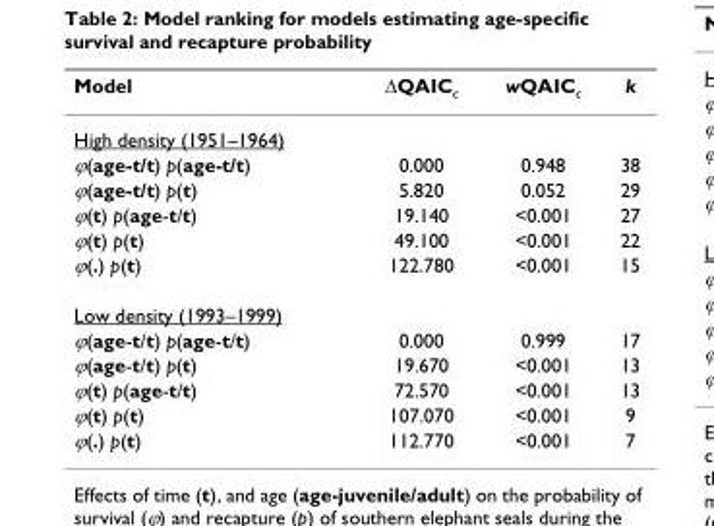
<table><thead><tr><td>Model</td><td>ΔQAIC<sub>c</sub></td><td>wQAIC<sub>c</sub></td><td>k</td></tr></thead><tbody><tr><td colspan="4">High density (1951–1964)</td></tr><tr><td>ϕ(age-t/t) p(age-t/t)</td><td>0.000</td><td>0.948</td><td>38</td></tr><tr><td>ϕ(age-t/t) p(t)</td><td>5.820</td><td>0.052</td><td>29</td></tr><tr><td>ϕ(t) p(age-t/t)</td><td>19.140</td><td>&lt;0.001</td><td>27</td></tr><tr><td>ϕ(t) p(t)</td><td>49.100</td><td>&lt;0.001</td><td>22</td></tr><tr><td>ϕ(.) p(t)</td><td>122.780</td><td>&lt;0.001</td><td>15</td></tr><tr><td colspan="4">Low density (1993–1999)</td></tr><tr><td>ϕ(age-t/t) p(age-t/t)</td><td>0.000</td><td>0.999</td><td>17</td></tr><tr><td>ϕ(age-t/t) p(t)</td><td>19.670</td><td>&lt;0.001</td><td>13</td></tr><tr><td>ϕ(t) p(age-t/t)</td><td>72.570</td><td>&lt;0.001</td><td>13</td></tr><tr><td>ϕ(t) p(t)</td><td>107.070</td><td>&lt;0.001</td><td>9</td></tr><tr><td>ϕ(.) p(t)</td><td>112.770</td><td>&lt;0.001</td><td>7</td></tr></tbody></table>